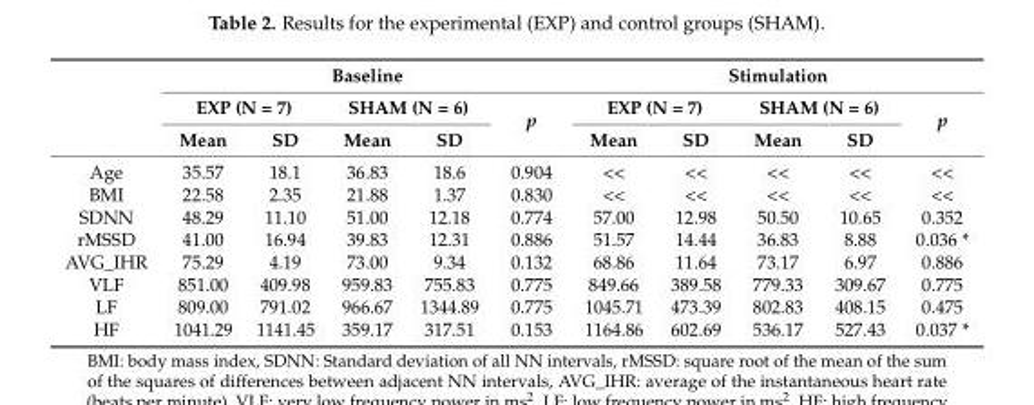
<table><thead><tr><td rowspan="3"></td><td colspan="5">Baseline</td><td colspan="5">Stimulation</td></tr><tr><td colspan="2">EXP (N = 7)</td><td colspan="2">SHAM (N = 6)</td><td rowspan="2">p</td><td colspan="2">EXP (N = 7)</td><td colspan="2">SHAM (N = 6)</td><td rowspan="2">p</td></tr><tr><td>Mean</td><td>SD</td><td>Mean</td><td>SD</td><td>Mean</td><td>SD</td><td>Mean</td><td>SD</td></tr></thead><tbody><tr><td>Age</td><td>35.57</td><td>18.1</td><td>36.83</td><td>18.6</td><td>0.904</td><td>&lt;&lt;</td><td>&lt;&lt;</td><td>&lt;&lt;</td><td>&lt;&lt;</td><td>&lt;&lt;</td></tr><tr><td>BMI</td><td>22.58</td><td>2.35</td><td>21.88</td><td>1.37</td><td>0.830</td><td>&lt;&lt;</td><td>&lt;&lt;</td><td>&lt;&lt;</td><td>&lt;&lt;</td><td>&lt;&lt;</td></tr><tr><td>SDNN</td><td>48.29</td><td>11.10</td><td>51.00</td><td>12.18</td><td>0.774</td><td>57.00</td><td>12.98</td><td>50.50</td><td>10.65</td><td>0.352</td></tr><tr><td>rMSSD</td><td>41.00</td><td>16.94</td><td>39.83</td><td>12.31</td><td>0.886</td><td>51.57</td><td>14.44</td><td>36.83</td><td>8.88</td><td>0.036 *</td></tr><tr><td>AVG_IHR</td><td>75.29</td><td>4.19</td><td>73.00</td><td>9.34</td><td>0.132</td><td>68.86</td><td>11.64</td><td>73.17</td><td>6.97</td><td>0.886</td></tr><tr><td>VLF</td><td>851.00</td><td>409.98</td><td>959.83</td><td>755.83</td><td>0.775</td><td>849.66</td><td>389.58</td><td>779.33</td><td>309.67</td><td>0.775</td></tr><tr><td>LF</td><td>809.00</td><td>791.02</td><td>966.67</td><td>1344.89</td><td>0.775</td><td>1045.71</td><td>473.39</td><td>802.83</td><td>408.15</td><td>0.475</td></tr><tr><td>HF</td><td>1041.29</td><td>1141.45</td><td>359.17</td><td>317.51</td><td>0.153</td><td>1164.86</td><td>602.69</td><td>536.17</td><td>527.43</td><td>0.037 *</td></tr></tbody></table>